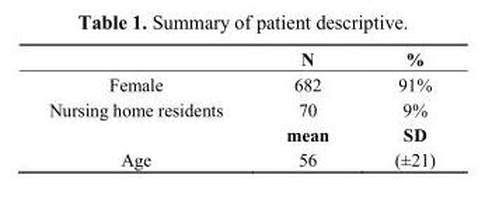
<table><thead><tr><td></td><td>N</td><td>%</td></tr></thead><tbody><tr><td>Female</td><td>682</td><td>91%</td></tr><tr><td rowspan="2">Nursing home residents</td><td>70</td><td>9%</td></tr><tr><td>mean</td><td>SD</td></tr><tr><td>Age</td><td>56</td><td>(±21)</td></tr></tbody></table>